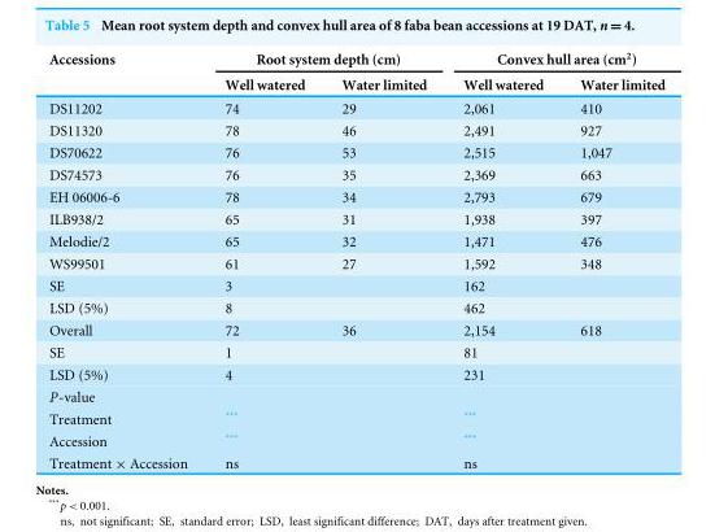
<table><thead><tr><td rowspan="2">Accessions</td><td colspan="2">Root system depth (cm)</td><td colspan="2">Convex hull area (cm<sup>2</sup>)</td></tr><tr><td>Well watered</td><td>Water limited</td><td>Well watered</td><td>Water limited</td></tr></thead><tbody><tr><td>DS11202</td><td>74</td><td>29</td><td>2,061</td><td>410</td></tr><tr><td>DS11320</td><td>78</td><td>46</td><td>2,491</td><td>927</td></tr><tr><td>DS70622</td><td>76</td><td>53</td><td>2,515</td><td>1,047</td></tr><tr><td>DS74573</td><td>76</td><td>35</td><td>2,369</td><td>663</td></tr><tr><td>EH 06006-6</td><td>78</td><td>34</td><td>2,793</td><td>679</td></tr><tr><td>ILB938/2</td><td>65</td><td>31</td><td>1,938</td><td>397</td></tr><tr><td>Melodie/2</td><td>65</td><td>32</td><td>1,471</td><td>476</td></tr><tr><td>WS99501</td><td>61</td><td>27</td><td>1,592</td><td>348</td></tr><tr><td>SE</td><td colspan="2">3</td><td colspan="2">162</td></tr><tr><td>LSD (5%)</td><td colspan="2">8</td><td colspan="2">462</td></tr><tr><td>Overall</td><td>72</td><td>36</td><td>2,154</td><td>618</td></tr><tr><td>SE</td><td colspan="2">1</td><td colspan="2">81</td></tr><tr><td>LSD (5%)</td><td colspan="2">4</td><td colspan="2">231</td></tr><tr><td colspan="5">P-value</td></tr><tr><td>Treatment</td><td colspan="2">***</td><td colspan="2">***</td></tr><tr><td>Accession</td><td colspan="2">***</td><td colspan="2">***</td></tr><tr><td>Treatment × Accession</td><td colspan="2">ns</td><td colspan="2">ns</td></tr></tbody></table>